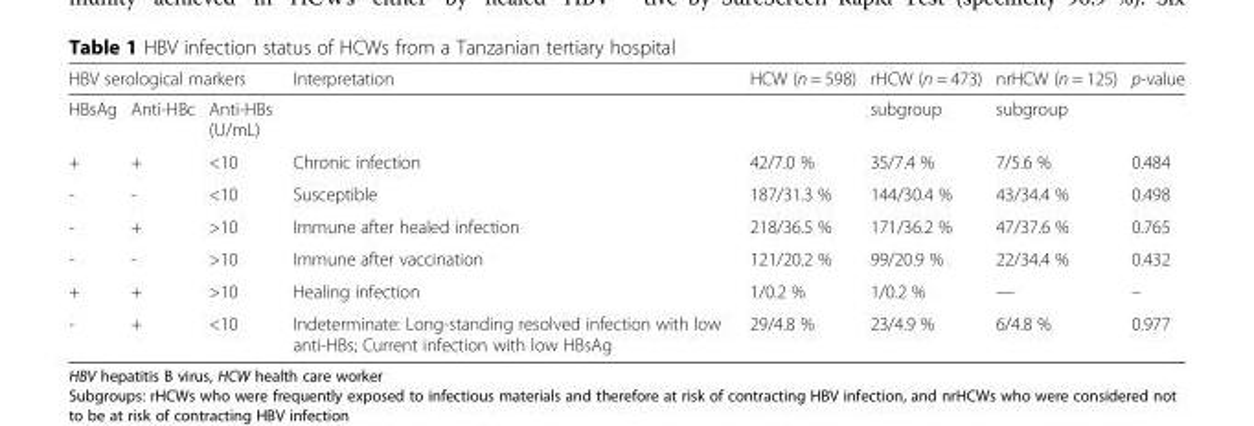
<table><thead><tr><td colspan="3">HBV serological markers</td><td rowspan="2">Interpretation</td><td rowspan="2">HCW (n = 598)</td><td rowspan="2">rHCW (n = 473) subgroup</td><td rowspan="2">nrHCW (n = 125) subgroup</td><td rowspan="2">p-value</td></tr><tr><td>HBsAg</td><td>Anti-HBc</td><td>Anti-HBs (U/mL)</td></tr></thead><tbody><tr><td>+</td><td>+</td><td>&lt;10</td><td>Chronic infection</td><td>42/7.0 %</td><td>35/7.4 %</td><td>7/5.6 %</td><td>0.484</td></tr><tr><td>-</td><td>-</td><td>&lt;10</td><td>Susceptible</td><td>187/31.3 %</td><td>144/30.4 %</td><td>43/34.4 %</td><td>0.498</td></tr><tr><td>-</td><td>+</td><td>&gt;10</td><td>Immune after healed infection</td><td>218/36.5 %</td><td>171/36.2 %</td><td>47/37.6 %</td><td>0.765</td></tr><tr><td>-</td><td>-</td><td>&gt;10</td><td>Immune after vaccination</td><td>121/20.2 %</td><td>99/20.9 %</td><td>22/34.4 %</td><td>0.432</td></tr><tr><td>+</td><td>+</td><td>&gt;10</td><td>Healing infection</td><td>1/0.2 %</td><td>1/0.2 %</td><td>—</td><td>–</td></tr><tr><td>-</td><td>+</td><td>&lt;10</td><td>Indeterminate: Long-standing resolved infection with low anti-HBs; Current infection with low HBsAg</td><td>29/4.8 %</td><td>23/4.9 %</td><td>6/4.8 %</td><td>0.977</td></tr></tbody></table>